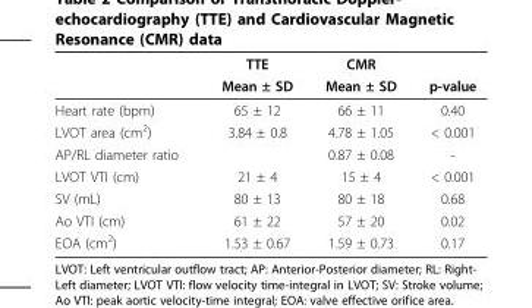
<table><thead><tr><td rowspan="2"></td><td rowspan="2">TTE Mean ± SD</td><td rowspan="2">CMR Mean ± SD</td><td rowspan="2">p-value</td></tr><tr></tr></thead><tbody><tr><td>Heart rate (bpm)</td><td>65 ± 12</td><td>66 ± 11</td><td>0.40</td></tr><tr><td>LVOT area (cm<sup>2</sup>)</td><td>3.84 ± 0.8</td><td>4.78 ± 1.05</td><td>&lt; 0.001</td></tr><tr><td>AP/RL diameter ratio</td><td></td><td>0.87 ± 0.08</td><td>-</td></tr><tr><td>LVOT VTI (cm)</td><td>21 ± 4</td><td>15 ± 4</td><td>&lt; 0.001</td></tr><tr><td>SV (mL)</td><td>80 ± 13</td><td>80 ± 18</td><td>0.68</td></tr><tr><td>Ao VTI (cm)</td><td>61 ± 22</td><td>57 ± 20</td><td>0.02</td></tr><tr><td>EOA (cm<sup>2</sup>)</td><td>1.53 ± 0.67</td><td>1.59 ± 0.73</td><td>0.17</td></tr></tbody></table>